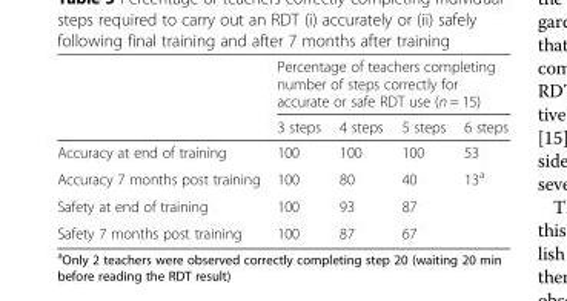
<table><thead><tr><td rowspan="2"></td><td colspan="4">Percentage of teachers completing number of steps correctly for accurate or safe RDT use (n = 15)</td></tr><tr><td>3 steps</td><td>4 steps</td><td>5 steps</td><td>6 steps</td></tr></thead><tbody><tr><td>Accuracy at end of training</td><td>100</td><td>100</td><td>100</td><td>53</td></tr><tr><td>Accuracy 7 months post training</td><td>100</td><td>80</td><td>40</td><td>13<sup>a</sup></td></tr><tr><td>Safety at end of training</td><td>100</td><td>93</td><td>87</td><td></td></tr><tr><td>Safety 7 months post training</td><td>100</td><td>87</td><td>67</td><td></td></tr></tbody></table>